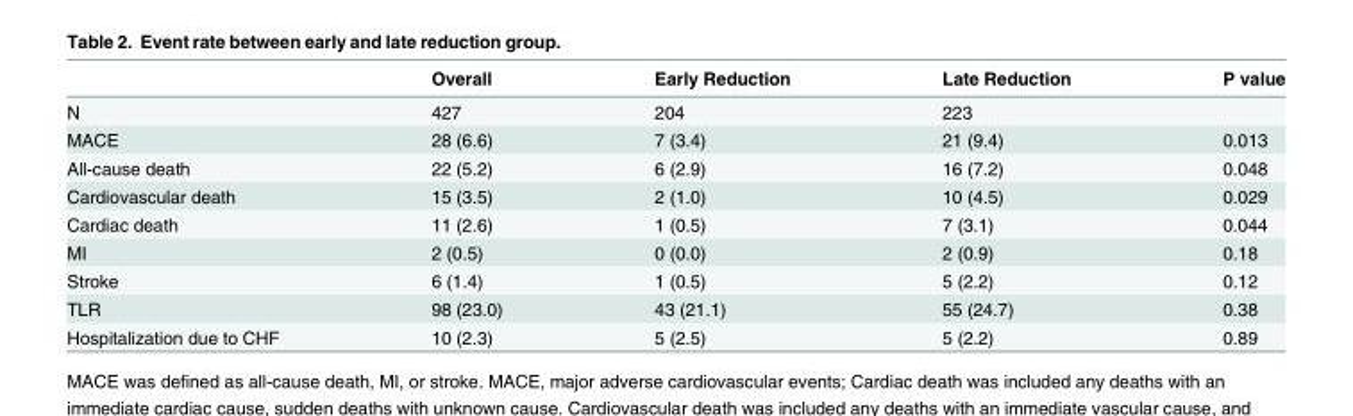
<table><thead><tr><td></td><td>Overall</td><td>Early Reduction</td><td>Late Reduction</td><td>P value</td></tr></thead><tbody><tr><td>N</td><td>427</td><td>204</td><td>223</td><td></td></tr><tr><td>MACE</td><td>28 (6.6)</td><td>7 (3.4)</td><td>21 (9.4)</td><td>0.013</td></tr><tr><td>All-cause death</td><td>22 (5.2)</td><td>6 (2.9)</td><td>16 (7.2)</td><td>0.048</td></tr><tr><td>Cardiovascular death</td><td>15 (3.5)</td><td>2 (1.0)</td><td>10 (4.5)</td><td>0.029</td></tr><tr><td>Cardiac death</td><td>11 (2.6)</td><td>1 (0.5)</td><td>7 (3.1)</td><td>0.044</td></tr><tr><td>MI</td><td>2 (0.5)</td><td>0 (0.0)</td><td>2 (0.9)</td><td>0.18</td></tr><tr><td>Stroke</td><td>6 (1.4)</td><td>1 (0.5)</td><td>5 (2.2)</td><td>0.12</td></tr><tr><td>TLR</td><td>98 (23.0)</td><td>43 (21.1)</td><td>55 (24.7)</td><td>0.38</td></tr><tr><td>Hospitalization due to CHF</td><td>10 (2.3)</td><td>5 (2.5)</td><td>5 (2.2)</td><td>0.89</td></tr></tbody></table>